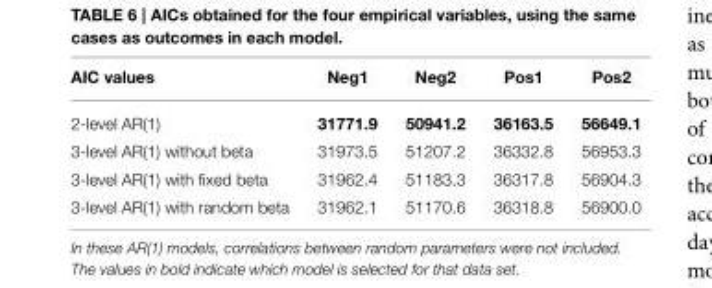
<table><thead><tr><td>AIC values</td><td>Neg1</td><td>Neg2</td><td>Pos1</td><td>Pos2</td></tr></thead><tbody><tr><td>2-level AR(1)</td><td>31771.9</td><td>50941.2</td><td>36163.5</td><td>56649.1</td></tr><tr><td>3-level AR(1) without beta</td><td>31973.5</td><td>51207.2</td><td>36332.8</td><td>56953.3</td></tr><tr><td>3-level AR(1) with fixed beta</td><td>31962.4</td><td>51183.3</td><td>36317.8</td><td>56904.3</td></tr><tr><td>3-level AR(1) with random beta</td><td>31962.1</td><td>51170.6</td><td>36318.8</td><td>56900.0</td></tr></tbody></table>